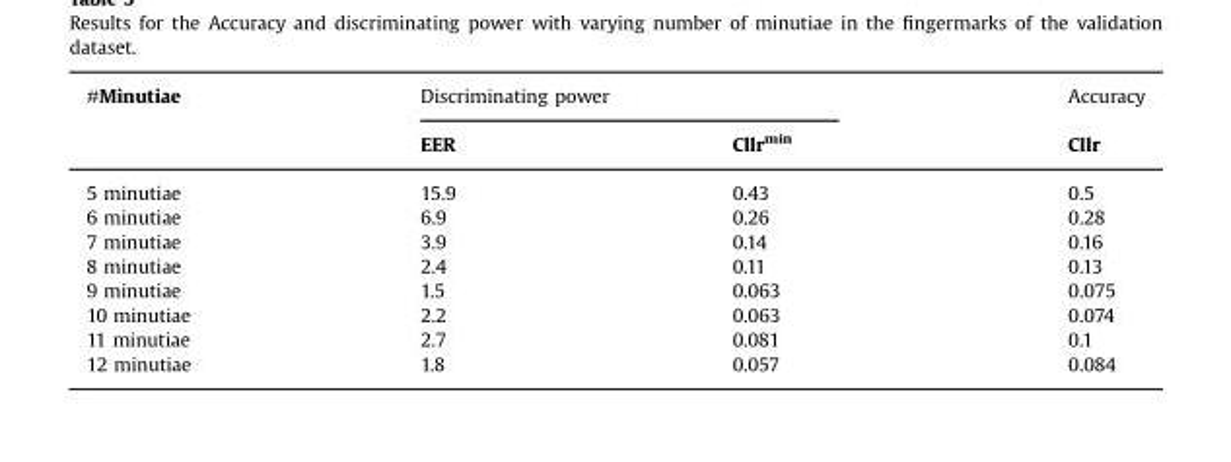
<table><thead><tr><td rowspan="2">#Minutiae</td><td colspan="2">Discriminating power</td><td rowspan="2">Accuracy Cllr</td></tr><tr><td>EER</td><td>Cllr<sup>min</sup></td></tr></thead><tbody><tr><td>5 minutiae</td><td>15.9</td><td>0.43</td><td>0.5</td></tr><tr><td>6 minutiae</td><td>6.9</td><td>0.26</td><td>0.28</td></tr><tr><td>7 minutiae</td><td>3.9</td><td>0.14</td><td>0.16</td></tr><tr><td>8 minutiae</td><td>2.4</td><td>0.11</td><td>0.13</td></tr><tr><td>9 minutiae</td><td>1.5</td><td>0.063</td><td>0.075</td></tr><tr><td>10 minutiae</td><td>2.2</td><td>0.063</td><td>0.074</td></tr><tr><td>11 minutiae</td><td>2.7</td><td>0.081</td><td>0.1</td></tr><tr><td>12 minutiae</td><td>1.8</td><td>0.057</td><td>0.084</td></tr></tbody></table>